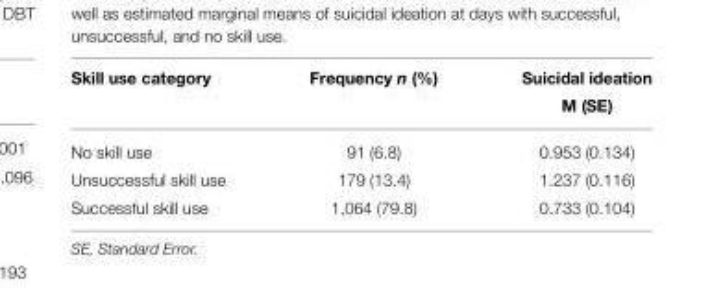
<table><thead><tr><td rowspan="2">Skill use category</td><td rowspan="2">Frequency n (%)</td><td rowspan="2">Suicidal ideation M (SE)</td></tr><tr></tr></thead><tbody><tr><td>No skill use</td><td>91 (6.8)</td><td>0.953 (0.134)</td></tr><tr><td>Unsuccessful skill use</td><td>179 (13.4)</td><td>1.237 (0.116)</td></tr><tr><td>Successful skill use</td><td>1,064 (79.8)</td><td>0.733 (0.104)</td></tr></tbody></table>